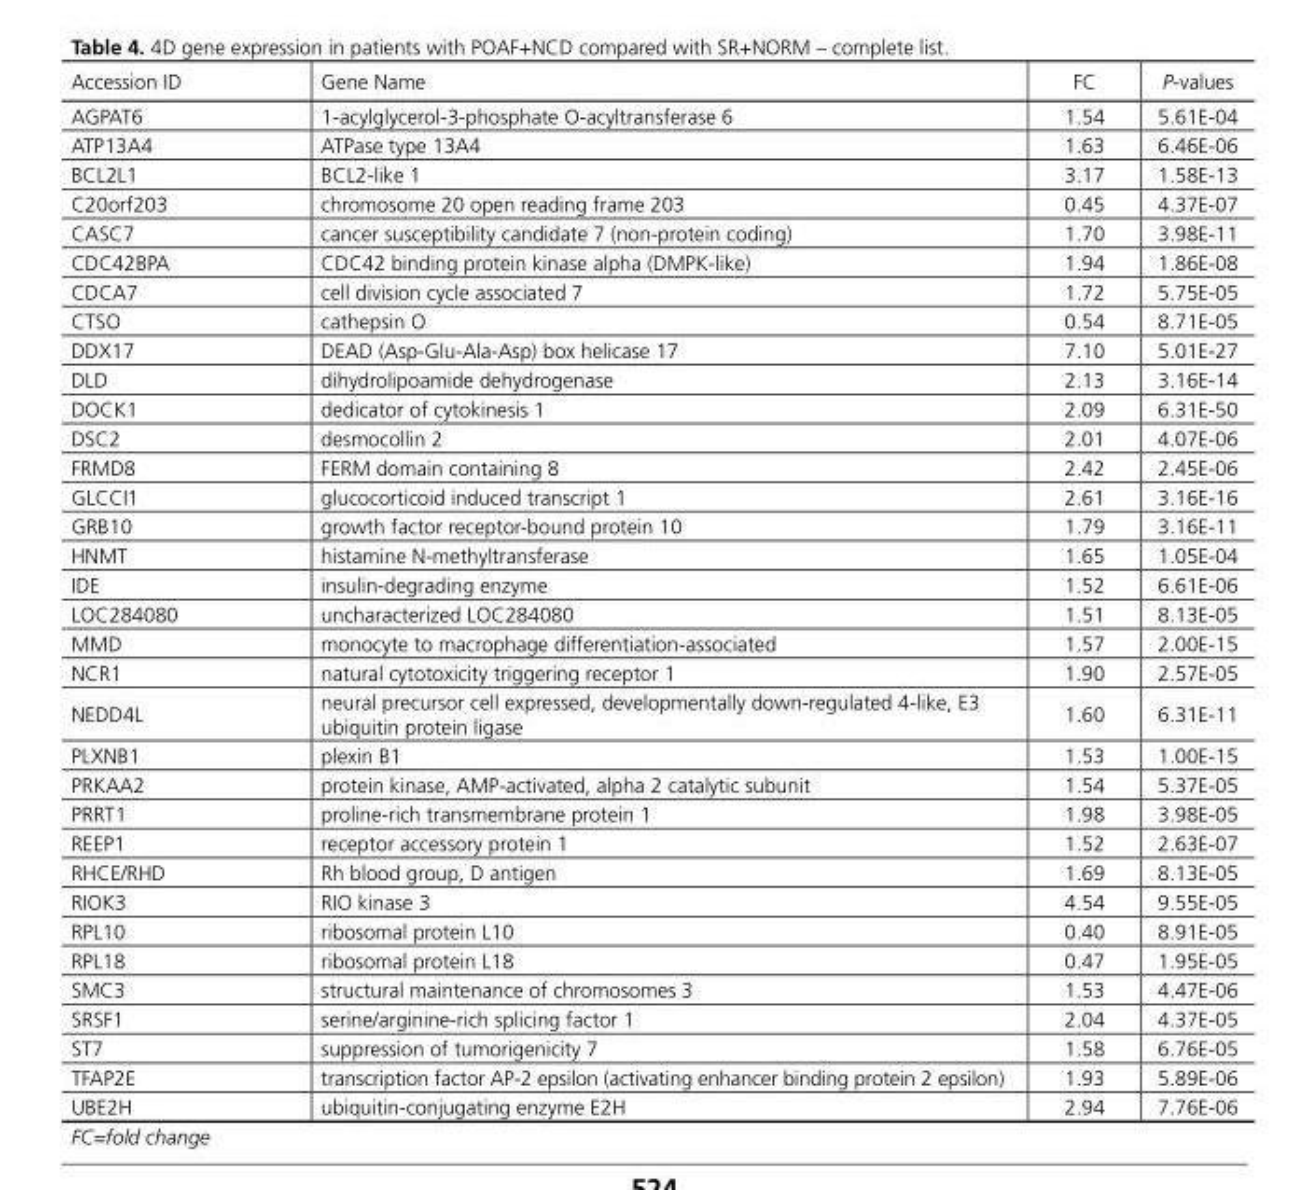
<table><thead><tr><td>Accession ID</td><td>Gene Name</td><td>FC</td><td>P-values</td></tr></thead><tbody><tr><td>AGPAT6</td><td>1-acylglycerol-3-phosphate O-acyltransferase 6</td><td>1.54</td><td>5.61E-04</td></tr><tr><td>ATP13A4</td><td>ATPase type 13A4</td><td>1.63</td><td>6.46E-06</td></tr><tr><td>BCL2L1</td><td>BCL2-like 1</td><td>3.17</td><td>1.58E-13</td></tr><tr><td>C20orf203</td><td>chromosome 20 open reading frame 203</td><td>0.45</td><td>4.37E-07</td></tr><tr><td>CASC7</td><td>cancer susceptibility candidate 7 (non-protein coding)</td><td>1.70</td><td>3.98E-11</td></tr><tr><td>CDC42BPA</td><td>CDC42 binding protein kinase alpha (DMPK-like)</td><td>1.94</td><td>1.86E-08</td></tr><tr><td>CDCA7</td><td>cell division cycle associated 7</td><td>1.72</td><td>5.75E-05</td></tr><tr><td>CTSO</td><td>cathepsin O</td><td>0.54</td><td>8.71E-05</td></tr><tr><td>DDX17</td><td>DEAD (Asp-Glu-Ala-Asp) box helicase 17</td><td>7.10</td><td>5.01E-27</td></tr><tr><td>DLD</td><td>dihydrolipoamide dehydrogenase</td><td>2.13</td><td>3.16E-14</td></tr><tr><td>DOCK1</td><td>dedicator of cytokinesis 1</td><td>2.09</td><td>6.31E-50</td></tr><tr><td>DSC2</td><td>desmocollin 2</td><td>2.01</td><td>4.07E-06</td></tr><tr><td>FRMD8</td><td>FERM domain containing 8</td><td>2.42</td><td>2.45E-06</td></tr><tr><td>GLCCI1</td><td>glucocorticoid induced transcript 1</td><td>2.61</td><td>3.16E-16</td></tr><tr><td>GRB10</td><td>growth factor receptor-bound protein 10</td><td>1.79</td><td>3.16E-11</td></tr><tr><td>HNMT</td><td>histamine N-methyltransferase</td><td>1.65</td><td>1.05E-04</td></tr><tr><td>IDE</td><td>insulin-degrading enzyme</td><td>1.52</td><td>6.61E-06</td></tr><tr><td>LOC284080</td><td>uncharacterized LOC284080</td><td>1.51</td><td>8.13E-05</td></tr><tr><td>MMD</td><td>monocyte to macrophage differentiation-associated</td><td>1.57</td><td>2.00E-15</td></tr><tr><td>NCR1</td><td>natural cytotoxicity triggering receptor 1</td><td>1.90</td><td>2.57E-05</td></tr><tr><td>NEDD4L</td><td>neural precursor cell expressed, developmentally down-regulated 4-like, E3 ubiquitin protein ligase</td><td>1.60</td><td>6.31E-11</td></tr><tr><td>PLXNB1</td><td>plexin B1</td><td>1.53</td><td>1.00E-15</td></tr><tr><td>PRKAA2</td><td>protein kinase, AMP-activated, alpha 2 catalytic subunit</td><td>1.54</td><td>5.37E-05</td></tr><tr><td>PRRT1</td><td>proline-rich transmembrane protein 1</td><td>1.98</td><td>3.98E-05</td></tr><tr><td>REEP1</td><td>receptor accessory protein 1</td><td>1.52</td><td>2.63E-07</td></tr><tr><td>RHCE/RHD</td><td>Rh blood group, D antigen</td><td>1.69</td><td>8.13E-05</td></tr><tr><td>RIOK3</td><td>RIO kinase 3</td><td>4.54</td><td>9.55E-05</td></tr><tr><td>RPL10</td><td>ribosomal protein L10</td><td>0.40</td><td>8.91E-05</td></tr><tr><td>RPL18</td><td>ribosomal protein L18</td><td>0.47</td><td>1.95E-05</td></tr><tr><td>SMC3</td><td>structural maintenance of chromosomes 3</td><td>1.53</td><td>4.47E-06</td></tr><tr><td>SRSF1</td><td>serine/arginine-rich splicing factor 1</td><td>2.04</td><td>4.37E-05</td></tr><tr><td>ST7</td><td>suppression of tumorigenicity 7</td><td>1.58</td><td>6.76E-05</td></tr><tr><td>TFAP2E</td><td>transcription factor AP-2 epsilon (activating enhancer binding protein 2 epsilon)</td><td>1.93</td><td>5.89E-06</td></tr><tr><td>UBE2H</td><td>ubiquitin-conjugating enzyme E2H</td><td>2.94</td><td>7.76E-06</td></tr></tbody></table>